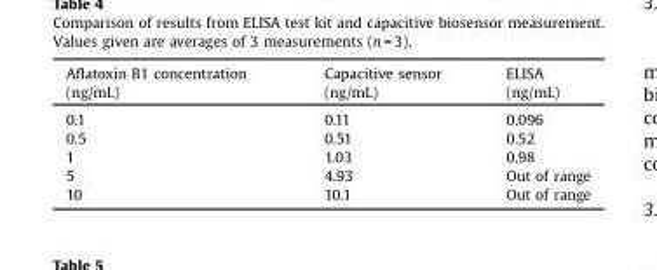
<table><thead><tr><td>Aflatoxin B1 concentration (ng/mL)</td><td>Capacitive sensor (ng/mL)</td><td>ELISA (ng/mL)</td></tr></thead><tbody><tr><td>0.1</td><td>0.11</td><td>0.096</td></tr><tr><td>0.5</td><td>0.51</td><td>0.52</td></tr><tr><td>1</td><td>1.03</td><td>0.98</td></tr><tr><td>5</td><td>4.93</td><td>Out of range</td></tr><tr><td>10</td><td>10.1</td><td>Out of range</td></tr></tbody></table>